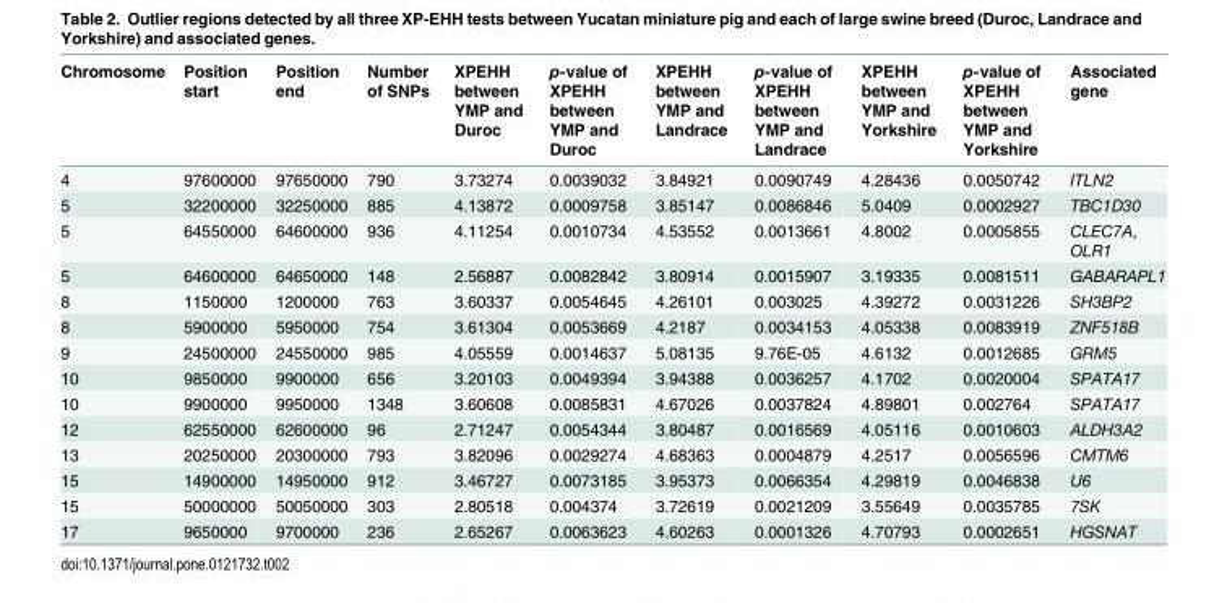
<table><thead><tr><td>Chromosome</td><td>Position start</td><td>Position end</td><td>Number of SNPs</td><td>XPEHH between YMP and Duroc</td><td>p-value of XPEHH between YMP and Duroc</td><td>XPEHH between YMP and Landrace</td><td>p-value of XPEHH between YMP and Landrace</td><td>XPEHH between YMP and Yorkshire</td><td>p-value of XPEHH between YMP and Yorkshire</td><td>Associated gene</td></tr></thead><tbody><tr><td>4</td><td>97600000</td><td>97650000</td><td>790</td><td>3.73274</td><td>0.0039032</td><td>3.84921</td><td>0.0090749</td><td>4.28436</td><td>0.0050742</td><td>ITLN2</td></tr><tr><td>5</td><td>32200000</td><td>32250000</td><td>885</td><td>4.13872</td><td>0.0009758</td><td>3.85147</td><td>0.0086846</td><td>5.0409</td><td>0.0002927</td><td>TBC1D30</td></tr><tr><td>5</td><td>64550000</td><td>64600000</td><td>936</td><td>4.11254</td><td>0.0010734</td><td>4.53552</td><td>0.0013661</td><td>4.8002</td><td>0.0005855</td><td>CLEC7A, OLR1</td></tr><tr><td>5</td><td>64600000</td><td>64650000</td><td>148</td><td>2.56887</td><td>0.0082842</td><td>3.80914</td><td>0.0015907</td><td>3.19335</td><td>0.0081511</td><td>GABARAPL1</td></tr><tr><td>8</td><td>1150000</td><td>1200000</td><td>763</td><td>3.60337</td><td>0.0054645</td><td>4.26101</td><td>0.003025</td><td>4.39272</td><td>0.0031226</td><td>SH3BP2</td></tr><tr><td>8</td><td>5900000</td><td>5950000</td><td>754</td><td>3.61304</td><td>0.0053669</td><td>4.2187</td><td>0.0034153</td><td>4.05338</td><td>0.0083919</td><td>ZNF518B</td></tr><tr><td>9</td><td>24500000</td><td>24550000</td><td>985</td><td>4.05559</td><td>0.0014637</td><td>5.08135</td><td>9.76E-05</td><td>4.6132</td><td>0.0012685</td><td>GRM5</td></tr><tr><td>10</td><td>9850000</td><td>9900000</td><td>656</td><td>3.20103</td><td>0.0049394</td><td>3.94388</td><td>0.0036257</td><td>4.1702</td><td>0.0020004</td><td>SPATA17</td></tr><tr><td>10</td><td>9900000</td><td>9950000</td><td>1348</td><td>3.60608</td><td>0.0085831</td><td>4.67026</td><td>0.0037824</td><td>4.89801</td><td>0.002764</td><td>SPATA17</td></tr><tr><td>12</td><td>62550000</td><td>62600000</td><td>96</td><td>2.71247</td><td>0.0054344</td><td>3.80487</td><td>0.0016569</td><td>4.05116</td><td>0.0010603</td><td>ALDH3A2</td></tr><tr><td>13</td><td>20250000</td><td>20300000</td><td>793</td><td>3.82096</td><td>0.0029274</td><td>4.68363</td><td>0.0004879</td><td>4.2517</td><td>0.0056596</td><td>CMTM6</td></tr><tr><td>15</td><td>14900000</td><td>14950000</td><td>912</td><td>3.46727</td><td>0.0073185</td><td>3.95373</td><td>0.0066354</td><td>4.29819</td><td>0.0046838</td><td>U6</td></tr><tr><td>15</td><td>50000000</td><td>50050000</td><td>303</td><td>2.80518</td><td>0.004374</td><td>3.72619</td><td>0.0021209</td><td>3.55649</td><td>0.0035785</td><td>7SK</td></tr><tr><td>17</td><td>9650000</td><td>9700000</td><td>236</td><td>2.65267</td><td>0.0063623</td><td>4.60263</td><td>0.0001326</td><td>4.70793</td><td>0.0002651</td><td>HGSNAT</td></tr></tbody></table>